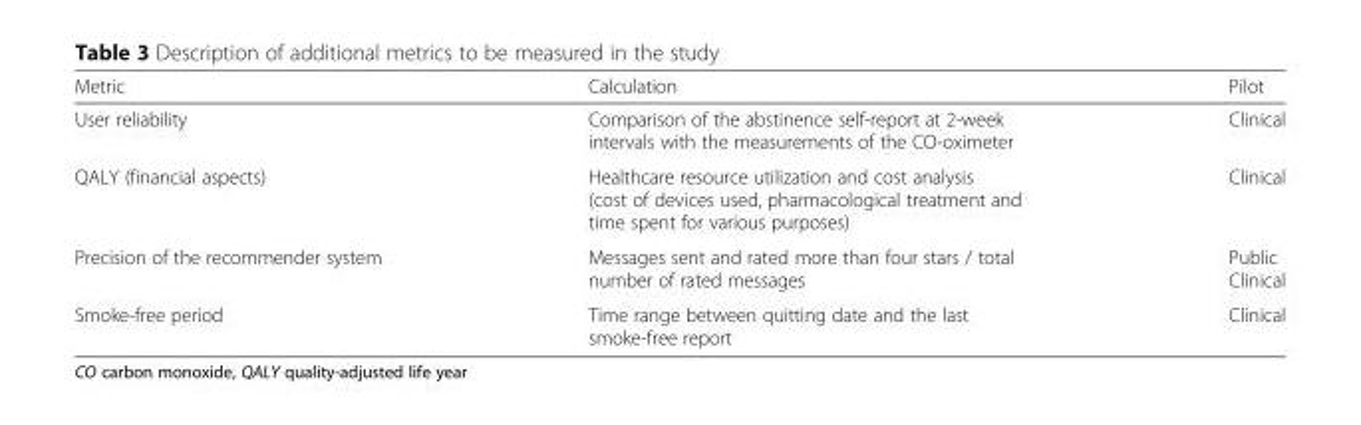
<table><thead><tr><td>Metric</td><td>Calculation</td><td>Pilot</td></tr></thead><tbody><tr><td>User reliability</td><td>Comparison of the abstinence self-report at 2-week intervals with the measurements of the CO-oximeter</td><td>Clinical</td></tr><tr><td>QALY (financial aspects)</td><td>Healthcare resource utilization and cost analysis (cost of devices used, pharmacological treatment and time spent for various purposes)</td><td>Clinical</td></tr><tr><td>Precision of the recommender system</td><td>Messages sent and rated more than four stars / total number of rated messages</td><td>Public Clinical</td></tr><tr><td>Smoke-free period</td><td>Time range between quitting date and the last smoke-free report</td><td>Clinical</td></tr></tbody></table>